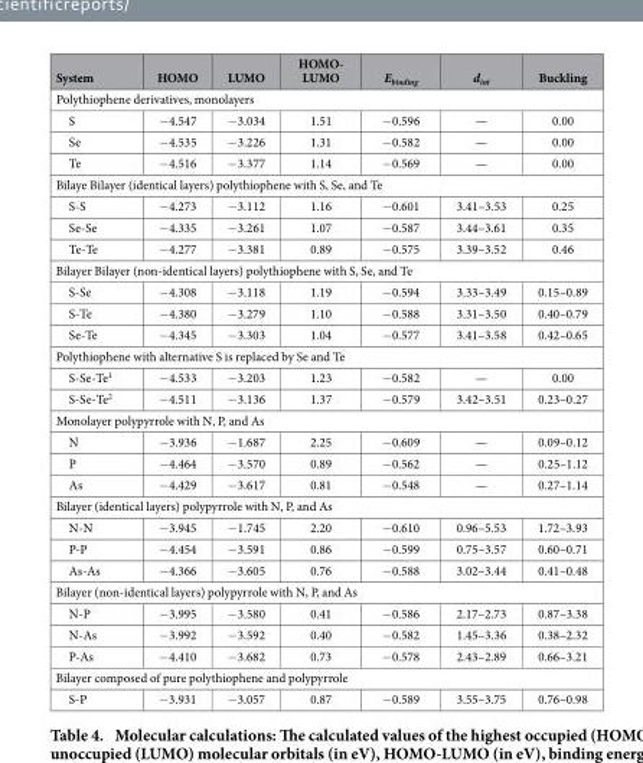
<table><thead><tr><td>System</td><td>HOMO</td><td>LUMO</td><td>HOMO- LUMO</td><td>E<sub>binding</sub></td><td>d<sub>int</sub></td><td>Buckling</td></tr></thead><tbody><tr><td colspan="7">Polythiophene derivatives, monolayers</td></tr><tr><td>S</td><td>− 4.547</td><td>− 3.034</td><td>1.51</td><td>− 0.596</td><td>—</td><td>0.00</td></tr><tr><td>Se</td><td>− 4.535</td><td>− 3.226</td><td>1.31</td><td>− 0.582</td><td>—</td><td>0.00</td></tr><tr><td>Te</td><td>− 4.516</td><td>− 3.377</td><td>1.14</td><td>− 0.569</td><td>—</td><td>0.00</td></tr><tr><td colspan="7">Bilaye Bilayer (identical layers) polythiophene with S, Se, and Te</td></tr><tr><td>S-S</td><td>− 4.273</td><td>− 3.112</td><td>1.16</td><td>− 0.601</td><td>3.41–3.53</td><td>0.25</td></tr><tr><td>Se-Se</td><td>− 4.335</td><td>− 3.261</td><td>1.07</td><td>− 0.587</td><td>3.44–3.61</td><td>0.35</td></tr><tr><td>Te-Te</td><td>− 4.277</td><td>− 3.381</td><td>0.89</td><td>− 0.575</td><td>3.39–3.52</td><td>0.46</td></tr><tr><td colspan="7">Bilayer Bilayer (non-identical layers) polythiophene with S, Se, and Te</td></tr><tr><td>S-Se</td><td>− 4.308</td><td>− 3.118</td><td>1.19</td><td>− 0.594</td><td>3.33–3.49</td><td>0.15–0.89</td></tr><tr><td>S-Te</td><td>− 4.380</td><td>− 3.279</td><td>1.10</td><td>− 0.588</td><td>3.31–3.50</td><td>0.40–0.79</td></tr><tr><td>Se-Te</td><td>− 4.345</td><td>− 3.303</td><td>1.04</td><td>− 0.577</td><td>3.41–3.58</td><td>0.42–0.65</td></tr><tr><td colspan="7">Polythiophene with alternative S is replaced by Se and Te</td></tr><tr><td>S-Se-Te<sup>1</sup></td><td>− 4.533</td><td>− 3.203</td><td>1.23</td><td>− 0.582</td><td>—</td><td>0.00</td></tr><tr><td>S-Se-Te<sup>2</sup></td><td>− 4.511</td><td>− 3.136</td><td>1.37</td><td>− 0.579</td><td>3.42–3.51</td><td>0.23–0.27</td></tr><tr><td colspan="7">Monolayer polypyrrole with N, P, and As</td></tr><tr><td>N</td><td>− 3.936</td><td>− 1.687</td><td>2.25</td><td>− 0.609</td><td>—</td><td>0.09–0.12</td></tr><tr><td>P</td><td>− 4.464</td><td>− 3.570</td><td>0.89</td><td>− 0.562</td><td>—</td><td>0.25–1.12</td></tr><tr><td>As</td><td>− 4.429</td><td>− 3.617</td><td>0.81</td><td>− 0.548</td><td>—</td><td>0.27–1.14</td></tr><tr><td colspan="7">Bilayer (identical layers) polypyrrole with N, P, and As</td></tr><tr><td>N-N</td><td>− 3.945</td><td>− 1.745</td><td>2.20</td><td>− 0.610</td><td>0.96–5.53</td><td>1.72–3.93</td></tr><tr><td>P-P</td><td>− 4.454</td><td>− 3.591</td><td>0.86</td><td>− 0.599</td><td>0.75–3.57</td><td>0.60–0.71</td></tr><tr><td>As-As</td><td>− 4.366</td><td>− 3.605</td><td>0.76</td><td>− 0.588</td><td>3.02–3.44</td><td>0.41–0.48</td></tr><tr><td colspan="7">Bilayer (non-identical layers) polypyrrole with N, P, and As</td></tr><tr><td>N-P</td><td>− 3.995</td><td>− 3.580</td><td>0.41</td><td>− 0.586</td><td>2.17–2.73</td><td>0.87–3.38</td></tr><tr><td>N-As</td><td>− 3.992</td><td>− 3.592</td><td>0.40</td><td>− 0.582</td><td>1.45–3.36</td><td>0.38–2.32</td></tr><tr><td>P-As</td><td>− 4.410</td><td>− 3.682</td><td>0.73</td><td>− 0.578</td><td>2.43–2.89</td><td>0.66–3.21</td></tr><tr><td colspan="7">Bilayer composed of pure polythiophene and polypyrrole</td></tr><tr><td>S-P</td><td>− 3.931</td><td>− 3.057</td><td>0.87</td><td>− 0.589</td><td>3.55–3.75</td><td>0.76–0.98</td></tr></tbody></table>